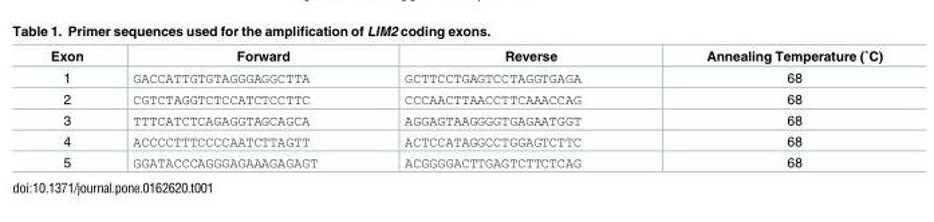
<table><thead><tr><td>Exon</td><td>Forward</td><td>Reverse</td><td>Annealing Temperature (˚C)</td></tr></thead><tbody><tr><td>1</td><td>GACCATTGTGTAGGGAGGCTTA</td><td>GCTTCCTGAGTCCTAGGTGAGA</td><td>68</td></tr><tr><td>2</td><td>CGTCTAGGTCTCCATCTCCTTC</td><td>CCCAACTTAACCTTCAAACCAG</td><td>68</td></tr><tr><td>3</td><td>TTTCATCTCAGAGGTAGCAGCA</td><td>AGGAGTAAGGGGTGAGAATGGT</td><td>68</td></tr><tr><td>4</td><td>ACCCCTTTCCCCAATCTTAGTT</td><td>ACTCCATAGGCCTGGAGTCTTC</td><td>68</td></tr><tr><td>5</td><td>GGATACCCAGGGAGAAAGAGAGT</td><td>ACGGGGACTTGAGTCTTCTCAG</td><td>68</td></tr></tbody></table>